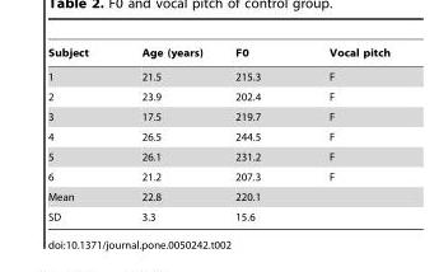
<table><thead><tr><td>Subject</td><td>Age (years)</td><td>F0</td><td>Vocal pitch</td></tr></thead><tbody><tr><td>1</td><td>21.5</td><td>215.3</td><td>F</td></tr><tr><td>2</td><td>23.9</td><td>202.4</td><td>F</td></tr><tr><td>3</td><td>17.5</td><td>219.7</td><td>F</td></tr><tr><td>4</td><td>26.5</td><td>244.5</td><td>F</td></tr><tr><td>5</td><td>26.1</td><td>231.2</td><td>F</td></tr><tr><td>6</td><td>21.2</td><td>207.3</td><td>F</td></tr><tr><td>Mean</td><td>22.8</td><td>220.1</td><td></td></tr><tr><td>SD</td><td>3.3</td><td>15.6</td><td></td></tr></tbody></table>